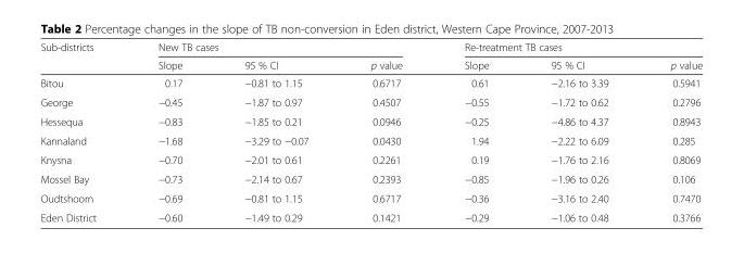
<table><thead><tr><td rowspan="2">Sub-districts</td><td colspan="3">New TB cases</td><td colspan="3">Re-treatment TB cases</td></tr><tr><td>Slope</td><td>95 % CI</td><td>p value</td><td>Slope</td><td>95 % CI</td><td>p value</td></tr></thead><tbody><tr><td>Bitou</td><td>0.17</td><td>−0.81 to 1.15</td><td>0.6717</td><td>0.61</td><td>−2.16 to 3.39</td><td>0.5941</td></tr><tr><td>George</td><td>−0.45</td><td>−1.87 to 0.97</td><td>0.4507</td><td>−0.55</td><td>−1.72 to 0.62</td><td>0.2796</td></tr><tr><td>Hessequa</td><td>−0.83</td><td>−1.85 to 0.21</td><td>0.0946</td><td>−0.25</td><td>−4.86 to 4.37</td><td>0.8943</td></tr><tr><td>Kannaland</td><td>−1.68</td><td>−3.29 to −0.07</td><td>0.0430</td><td>1.94</td><td>−2.22 to 6.09</td><td>0.285</td></tr><tr><td>Knysna</td><td>−0.70</td><td>−2.01 to 0.61</td><td>0.2261</td><td>0.19</td><td>−1.76 to 2.16</td><td>0.8069</td></tr><tr><td>Mossel Bay</td><td>−0.73</td><td>−2.14 to 0.67</td><td>0.2393</td><td>−0.85</td><td>−1.96 to 0.26</td><td>0.106</td></tr><tr><td>Oudtshoorn</td><td>−0.69</td><td>−0.81 to 1.15</td><td>0.6717</td><td>−0.36</td><td>−3.16 to 2.40</td><td>0.7470</td></tr><tr><td>Eden District</td><td>−0.60</td><td>−1.49 to 0.29</td><td>0.1421</td><td>−0.29</td><td>−1.06 to 0.48</td><td>0.3766</td></tr></tbody></table>